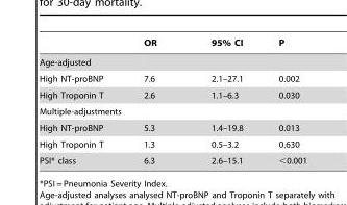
<table><thead><tr><td></td><td>OR</td><td>95% CI</td><td>P</td></tr></thead><tbody><tr><td colspan="4">Age-adjusted</td></tr><tr><td>High NT-proBNP</td><td>7.6</td><td>2.1–27.1</td><td>0.002</td></tr><tr><td>High Troponin T</td><td>2.6</td><td>1.1–6.3</td><td>0.030</td></tr><tr><td colspan="4">Multiple-adjustments</td></tr><tr><td>High NT-proBNP</td><td>5.3</td><td>1.4–19.8</td><td>0.013</td></tr><tr><td>High Troponin T</td><td>1.3</td><td>0.5–3.2</td><td>0.630</td></tr><tr><td>PSI* class</td><td>6.3</td><td>2.6–15.1</td><td>&lt;0.001</td></tr></tbody></table>